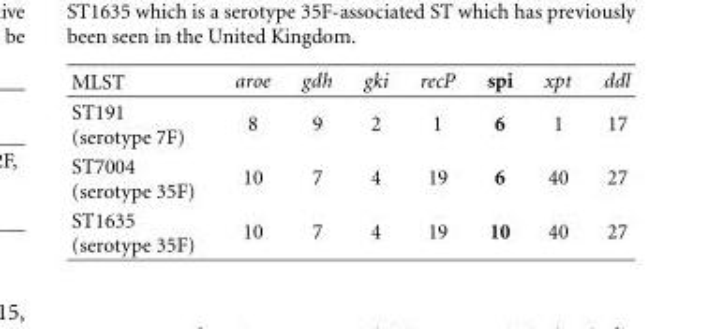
<table><thead><tr><td>MLST</td><td>aroe</td><td>gdh</td><td>gki</td><td>recP</td><td>spi</td><td>xpt</td><td>ddl</td></tr></thead><tbody><tr><td>ST191 (serotype 7F)</td><td>8</td><td>9</td><td>2</td><td>1</td><td>6</td><td>1</td><td>17</td></tr><tr><td>ST7004 (serotype 35F)</td><td>10</td><td>7</td><td>4</td><td>19</td><td>6</td><td>40</td><td>27</td></tr><tr><td>ST1635 (serotype 35F)</td><td>10</td><td>7</td><td>4</td><td>19</td><td>10</td><td>40</td><td>27</td></tr></tbody></table>